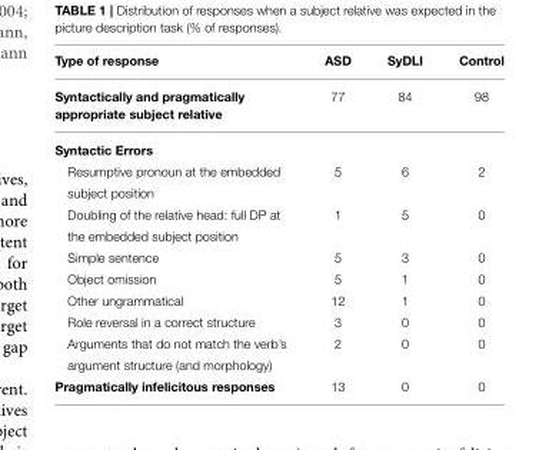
<table><thead><tr><td>Type of response</td><td>ASD</td><td>SyDLI</td><td>Control</td></tr></thead><tbody><tr><td>Syntactically and pragmatically appropriate subject relative</td><td>77</td><td>84</td><td>98</td></tr><tr><td colspan="4">Syntactic Errors</td></tr><tr><td>Resumptive pronoun at the embedded</td><td>5</td><td>6</td><td>2</td></tr><tr><td colspan="4">subject position</td></tr><tr><td>Doubling of the relative head: full DP at</td><td>1</td><td>5</td><td>0</td></tr><tr><td colspan="4">the embedded subject position</td></tr><tr><td>Simple sentence</td><td>5</td><td>3</td><td>0</td></tr><tr><td>Object omission</td><td>5</td><td>1</td><td>0</td></tr><tr><td>Other ungrammatical</td><td>12</td><td>1</td><td>0</td></tr><tr><td>Role reversal in a correct structure</td><td>3</td><td>0</td><td>0</td></tr><tr><td>Arguments that do not match the verb’s</td><td>2</td><td>0</td><td>0</td></tr><tr><td colspan="4">argument structure (and morphology)</td></tr><tr><td>Pragmatically infelicitous responses</td><td>13</td><td>0</td><td>0</td></tr></tbody></table>